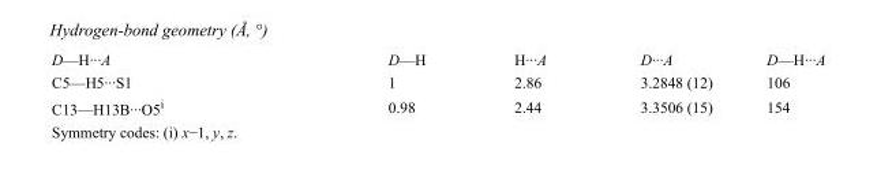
<table><tbody><tr><td>D—H···A</td><td>D—H</td><td>H···A</td><td>D···A</td><td>D—H···A</td></tr><tr><td>C5—H5···S1</td><td>1</td><td>2.86</td><td>3.2848 (12)</td><td>106</td></tr><tr><td>C13—H13B···O5<sup>i</sup></td><td>0.98</td><td>2.44</td><td>3.3506 (15)</td><td>154</td></tr></tbody></table>